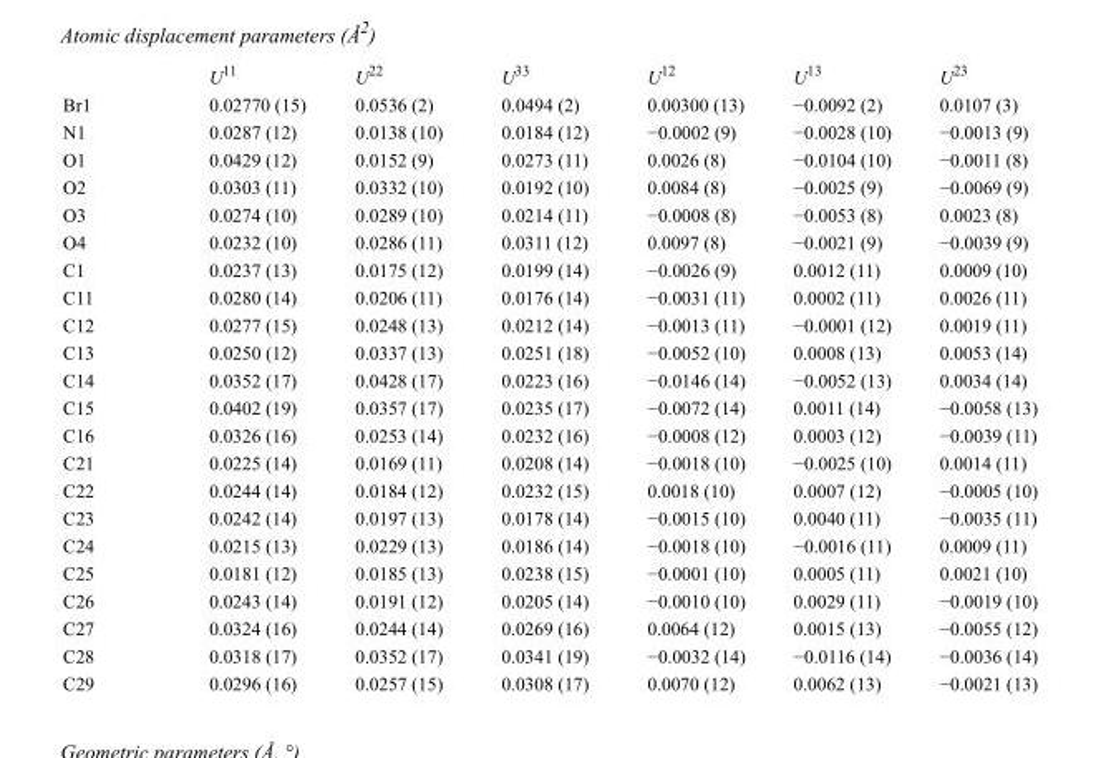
<table><thead><tr><td></td><td>U<sup>11</sup></td><td>U<sup>22</sup></td><td>U<sup>33</sup></td><td>U<sup>12</sup></td><td>U<sup>13</sup></td><td>U<sup>23</sup></td></tr></thead><tbody><tr><td>Br1</td><td>0.02770 (15)</td><td>0.0536 (2)</td><td>0.0494 (2)</td><td>0.00300 (13)</td><td>−0.0092 (2)</td><td>0.0107 (3)</td></tr><tr><td>N1</td><td>0.0287 (12)</td><td>0.0138 (10)</td><td>0.0184 (12)</td><td>−0.0002 (9)</td><td>−0.0028 (10)</td><td>−0.0013 (9)</td></tr><tr><td>O1</td><td>0.0429 (12)</td><td>0.0152 (9)</td><td>0.0273 (11)</td><td>0.0026 (8)</td><td>−0.0104 (10)</td><td>−0.0011 (8)</td></tr><tr><td>O2</td><td>0.0303 (11)</td><td>0.0332 (10)</td><td>0.0192 (10)</td><td>0.0084 (8)</td><td>−0.0025 (9)</td><td>−0.0069 (9)</td></tr><tr><td>O3</td><td>0.0274 (10)</td><td>0.0289 (10)</td><td>0.0214 (11)</td><td>−0.0008 (8)</td><td>−0.0053 (8)</td><td>0.0023 (8)</td></tr><tr><td>O4</td><td>0.0232 (10)</td><td>0.0286 (11)</td><td>0.0311 (12)</td><td>0.0097 (8)</td><td>−0.0021 (9)</td><td>−0.0039 (9)</td></tr><tr><td>C1</td><td>0.0237 (13)</td><td>0.0175 (12)</td><td>0.0199 (14)</td><td>−0.0026 (9)</td><td>0.0012 (11)</td><td>0.0009 (10)</td></tr><tr><td>C11</td><td>0.0280 (14)</td><td>0.0206 (11)</td><td>0.0176 (14)</td><td>−0.0031 (11)</td><td>0.0002 (11)</td><td>0.0026 (11)</td></tr><tr><td>C12</td><td>0.0277 (15)</td><td>0.0248 (13)</td><td>0.0212 (14)</td><td>−0.0013 (11)</td><td>−0.0001 (12)</td><td>0.0019 (11)</td></tr><tr><td>C13</td><td>0.0250 (12)</td><td>0.0337 (13)</td><td>0.0251 (18)</td><td>−0.0052 (10)</td><td>0.0008 (13)</td><td>0.0053 (14)</td></tr><tr><td>C14</td><td>0.0352 (17)</td><td>0.0428 (17)</td><td>0.0223 (16)</td><td>−0.0146 (14)</td><td>−0.0052 (13)</td><td>0.0034 (14)</td></tr><tr><td>C15</td><td>0.0402 (19)</td><td>0.0357 (17)</td><td>0.0235 (17)</td><td>−0.0072 (14)</td><td>0.0011 (14)</td><td>−0.0058 (13)</td></tr><tr><td>C16</td><td>0.0326 (16)</td><td>0.0253 (14)</td><td>0.0232 (16)</td><td>−0.0008 (12)</td><td>0.0003 (12)</td><td>−0.0039 (11)</td></tr><tr><td>C21</td><td>0.0225 (14)</td><td>0.0169 (11)</td><td>0.0208 (14)</td><td>−0.0018 (10)</td><td>−0.0025 (10)</td><td>0.0014 (11)</td></tr><tr><td>C22</td><td>0.0244 (14)</td><td>0.0184 (12)</td><td>0.0232 (15)</td><td>0.0018 (10)</td><td>0.0007 (12)</td><td>−0.0005 (10)</td></tr><tr><td>C23</td><td>0.0242 (14)</td><td>0.0197 (13)</td><td>0.0178 (14)</td><td>−0.0015 (10)</td><td>0.0040 (11)</td><td>−0.0035 (11)</td></tr><tr><td>C24</td><td>0.0215 (13)</td><td>0.0229 (13)</td><td>0.0186 (14)</td><td>−0.0018 (10)</td><td>−0.0016 (11)</td><td>0.0009 (11)</td></tr><tr><td>C25</td><td>0.0181 (12)</td><td>0.0185 (13)</td><td>0.0238 (15)</td><td>−0.0001 (10)</td><td>0.0005 (11)</td><td>0.0021 (10)</td></tr><tr><td>C26</td><td>0.0243 (14)</td><td>0.0191 (12)</td><td>0.0205 (14)</td><td>−0.0010 (10)</td><td>0.0029 (11)</td><td>−0.0019 (10)</td></tr><tr><td>C27</td><td>0.0324 (16)</td><td>0.0244 (14)</td><td>0.0269 (16)</td><td>0.0064 (12)</td><td>0.0015 (13)</td><td>−0.0055 (12)</td></tr><tr><td>C28</td><td>0.0318 (17)</td><td>0.0352 (17)</td><td>0.0341 (19)</td><td>−0.0032 (14)</td><td>−0.0116 (14)</td><td>−0.0036 (14)</td></tr><tr><td>C29</td><td>0.0296 (16)</td><td>0.0257 (15)</td><td>0.0308 (17)</td><td>0.0070 (12)</td><td>0.0062 (13)</td><td>−0.0021 (13)</td></tr></tbody></table>